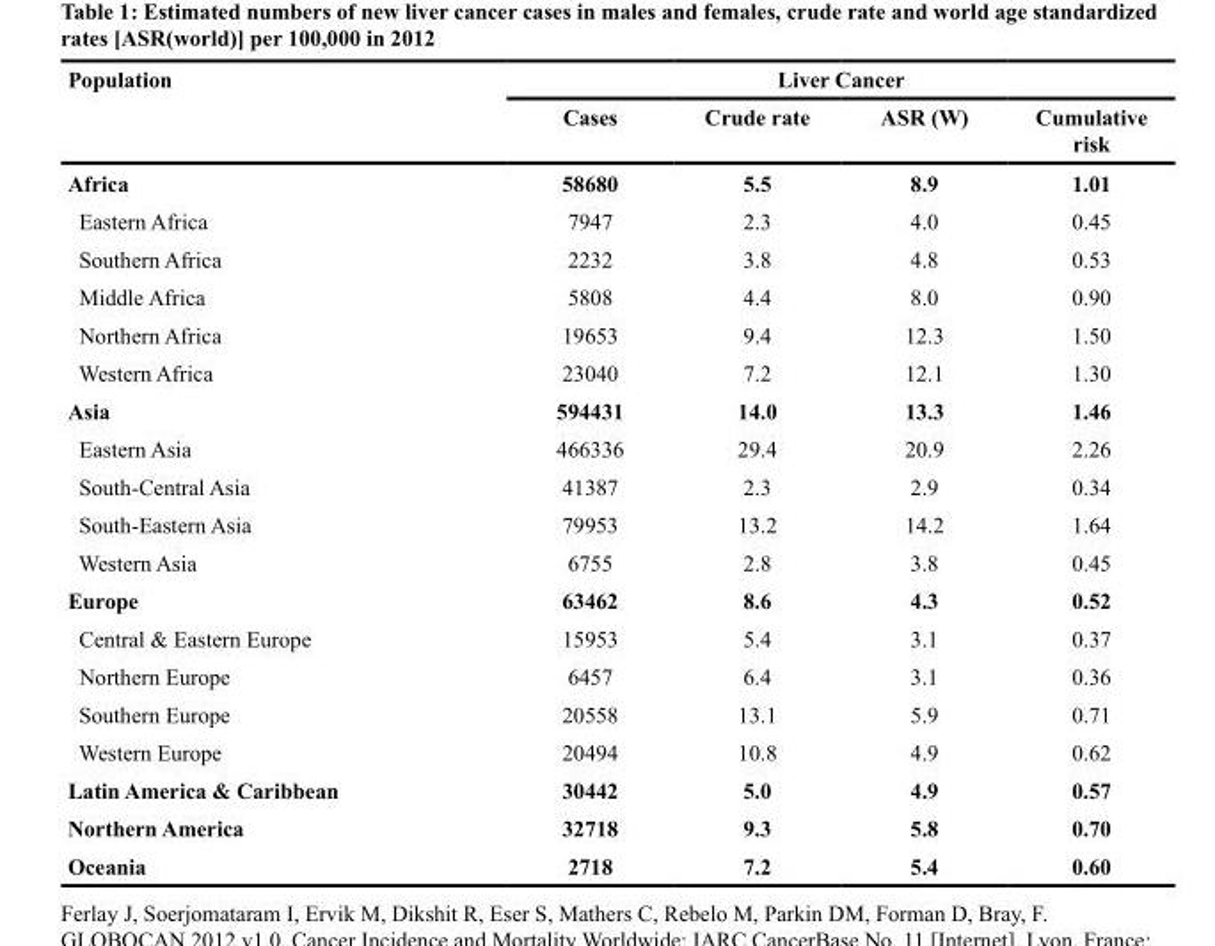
<table><thead><tr><td rowspan="2">Population</td><td colspan="4">Liver Cancer</td></tr><tr><td>Cases</td><td>Crude rate</td><td>ASR (W)</td><td>Cumulative risk</td></tr></thead><tbody><tr><td>Africa</td><td>58680</td><td>5.5</td><td>8.9</td><td>1.01</td></tr><tr><td>Eastern Africa</td><td>7947</td><td>2.3</td><td>4.0</td><td>0.45</td></tr><tr><td>Southern Africa</td><td>2232</td><td>3.8</td><td>4.8</td><td>0.53</td></tr><tr><td>Middle Africa</td><td>5808</td><td>4.4</td><td>8.0</td><td>0.90</td></tr><tr><td>Northern Africa</td><td>19653</td><td>9.4</td><td>12.3</td><td>1.50</td></tr><tr><td>Western Africa</td><td>23040</td><td>7.2</td><td>12.1</td><td>1.30</td></tr><tr><td>Asia</td><td>594431</td><td>14.0</td><td>13.3</td><td>1.46</td></tr><tr><td>Eastern Asia</td><td>466336</td><td>29.4</td><td>20.9</td><td>2.26</td></tr><tr><td>South-Central Asia</td><td>41387</td><td>2.3</td><td>2.9</td><td>0.34</td></tr><tr><td>South-Eastern Asia</td><td>79953</td><td>13.2</td><td>14.2</td><td>1.64</td></tr><tr><td>Western Asia</td><td>6755</td><td>2.8</td><td>3.8</td><td>0.45</td></tr><tr><td>Europe</td><td>63462</td><td>8.6</td><td>4.3</td><td>0.52</td></tr><tr><td>Central &amp; Eastern Europe</td><td>15953</td><td>5.4</td><td>3.1</td><td>0.37</td></tr><tr><td>Northern Europe</td><td>6457</td><td>6.4</td><td>3.1</td><td>0.36</td></tr><tr><td>Southern Europe</td><td>20558</td><td>13.1</td><td>5.9</td><td>0.71</td></tr><tr><td>Western Europe</td><td>20494</td><td>10.8</td><td>4.9</td><td>0.62</td></tr><tr><td>Latin America &amp; Caribbean</td><td>30442</td><td>5.0</td><td>4.9</td><td>0.57</td></tr><tr><td>Northern America</td><td>32718</td><td>9.3</td><td>5.8</td><td>0.70</td></tr><tr><td>Oceania</td><td>2718</td><td>7.2</td><td>5.4</td><td>0.60</td></tr></tbody></table>